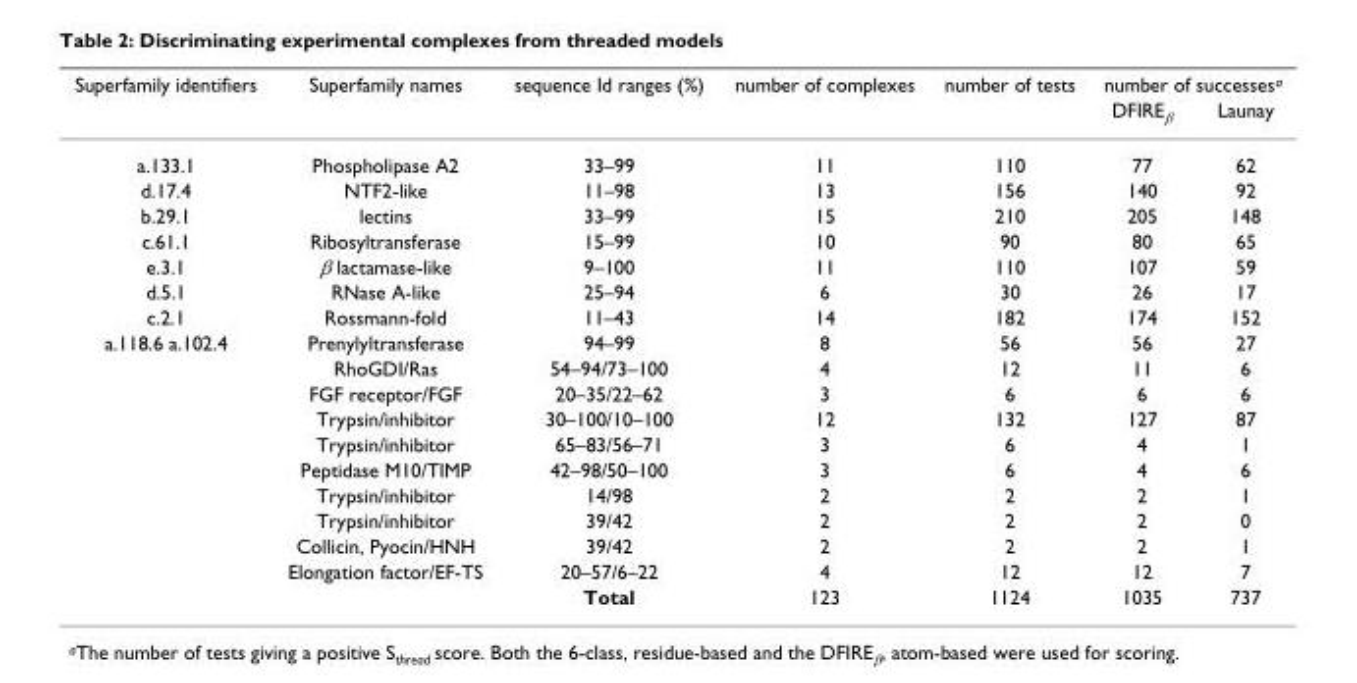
<table><thead><tr><td rowspan="2">Superfamily identifiers</td><td rowspan="2">Superfamily names</td><td rowspan="2">sequence Id ranges (%)</td><td rowspan="2">number of complexes</td><td rowspan="2">number of tests</td><td colspan="2">number of successes<sup>a</sup></td></tr><tr><td>DFIRE<sub>β</sub></td><td>Launay</td></tr></thead><tbody><tr><td>a.133.1</td><td>Phospholipase A2</td><td>33–99</td><td>11</td><td>110</td><td>77</td><td>62</td></tr><tr><td>d.17.4</td><td>NTF2-like</td><td>11–98</td><td>13</td><td>156</td><td>140</td><td>92</td></tr><tr><td>b.29.1</td><td>lectins</td><td>33–99</td><td>15</td><td>210</td><td>205</td><td>148</td></tr><tr><td>c.61.1</td><td>Ribosyltransferase</td><td>15–99</td><td>10</td><td>90</td><td>80</td><td>65</td></tr><tr><td>e.3.1</td><td>β lactamase-like</td><td>9–100</td><td>11</td><td>110</td><td>107</td><td>59</td></tr><tr><td>d.5.1</td><td>RNase A-like</td><td>25–94</td><td>6</td><td>30</td><td>26</td><td>17</td></tr><tr><td>c.2.1</td><td>Rossmann-fold</td><td>11–43</td><td>14</td><td>182</td><td>174</td><td>152</td></tr><tr><td rowspan="11">a.118.6 a.102.4</td><td>Prenylyltransferase</td><td>94–99</td><td>8</td><td>56</td><td>56</td><td>27</td></tr><tr><td>RhoGDI/Ras</td><td>54–94/73–100</td><td>4</td><td>12</td><td>11</td><td>6</td></tr><tr><td>FGF receptor/FGF</td><td>20–35/22–62</td><td>3</td><td>6</td><td>6</td><td>6</td></tr><tr><td>Trypsin/inhibitor</td><td>30–100/10–100</td><td>12</td><td>132</td><td>127</td><td>87</td></tr><tr><td>Trypsin/inhibitor</td><td>65–83/56–71</td><td>3</td><td>6</td><td>4</td><td>1</td></tr><tr><td>Peptidase M10/TIMP</td><td>42–98/50–100</td><td>3</td><td>6</td><td>4</td><td>6</td></tr><tr><td>Trypsin/inhibitor</td><td>14/98</td><td>2</td><td>2</td><td>2</td><td>1</td></tr><tr><td>Trypsin/inhibitor</td><td>39/42</td><td>2</td><td>2</td><td>2</td><td>0</td></tr><tr><td>Collicin, Pyocin/HNH</td><td>39/42</td><td>2</td><td>2</td><td>2</td><td>1</td></tr><tr><td>Elongation factor/EF-TS</td><td>20–57/6–22</td><td>4</td><td>12</td><td>12</td><td>7</td></tr><tr><td></td><td>Total</td><td>123</td><td>1124</td><td>1035</td><td>737</td></tr></tbody></table>